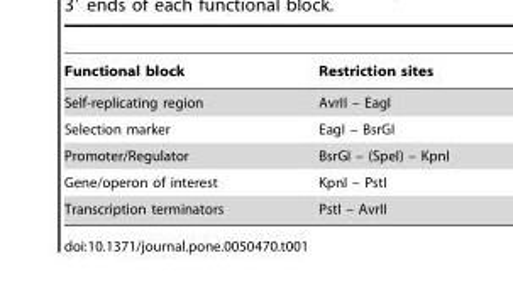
<table><thead><tr><td>Functional block</td><td>Restriction sites</td></tr></thead><tbody><tr><td>Self-replicating region</td><td>AvrII – EagI</td></tr><tr><td>Selection marker</td><td>EagI – BsrGI</td></tr><tr><td>Promoter/Regulator</td><td>BsrGI – (SpeI) – KpnI</td></tr><tr><td>Gene/operon of interest</td><td>KpnI – PstI</td></tr><tr><td>Transcription terminators</td><td>PstI – AvrII</td></tr></tbody></table>